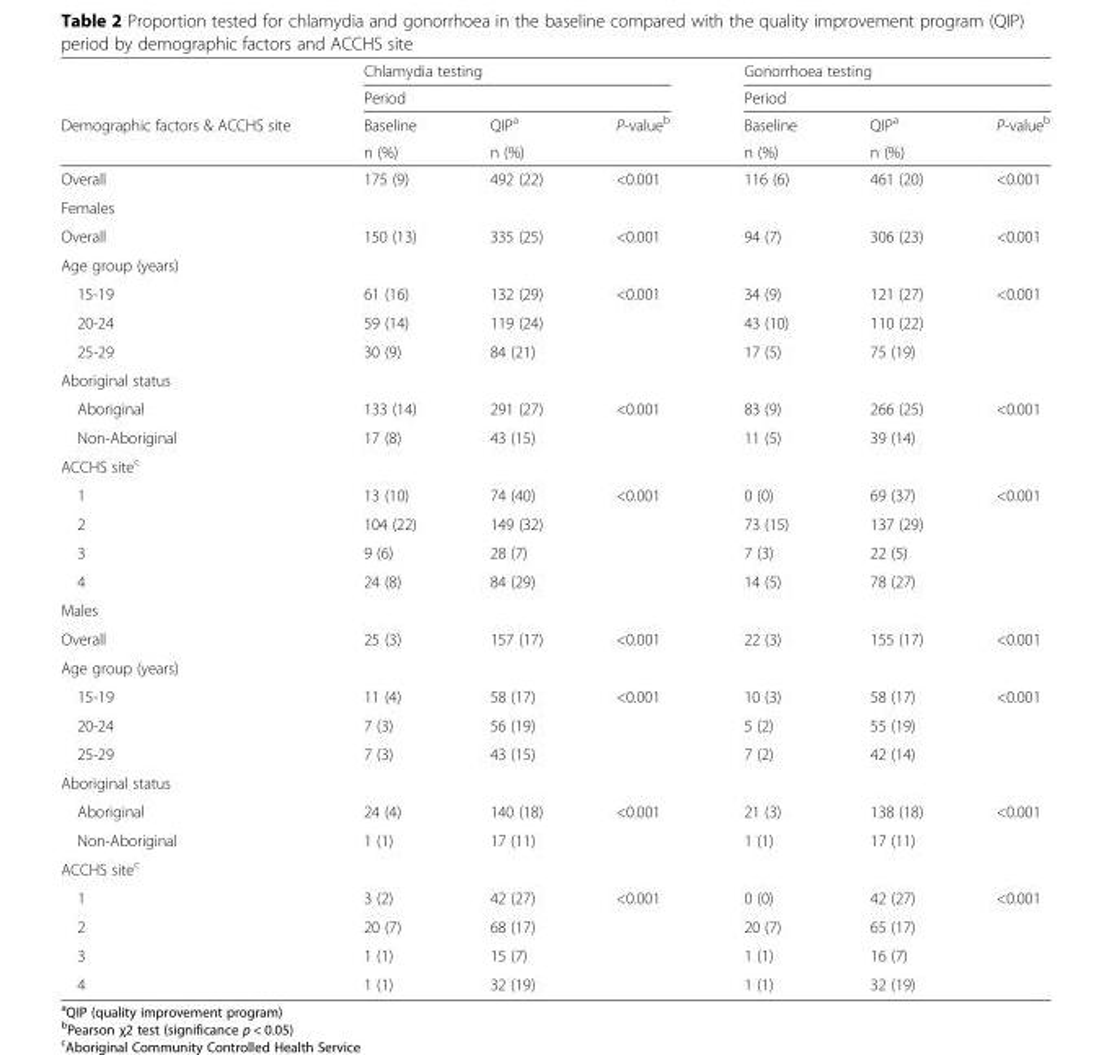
<table><thead><tr><td rowspan="4">Demographic factors &amp; ACCHS site</td><td rowspan="2" colspan="3">Chlamydia testing Period</td><td rowspan="2" colspan="3">Gonorrhoea testing Period</td></tr><tr></tr><tr><td rowspan="2">Baseline n (%)</td><td rowspan="2">QIP<sup>a</sup> n (%)</td><td rowspan="2">P-value<sup>b</sup></td><td rowspan="2">Baseline n (%)</td><td rowspan="2">QIP<sup>a</sup> n (%)</td><td rowspan="2">P-value<sup>b</sup></td></tr><tr></tr></thead><tbody><tr><td>Overall</td><td>175 (9)</td><td>492 (22)</td><td>&lt;0.001</td><td>116 (6)</td><td>461 (20)</td><td>&lt;0.001</td></tr><tr><td colspan="7">Females</td></tr><tr><td>Overall</td><td>150 (13)</td><td>335 (25)</td><td>&lt;0.001</td><td>94 (7)</td><td>306 (23)</td><td>&lt;0.001</td></tr><tr><td colspan="7">Age group (years)</td></tr><tr><td>15-19</td><td>61 (16)</td><td>132 (29)</td><td>&lt;0.001</td><td>34 (9)</td><td>121 (27)</td><td>&lt;0.001</td></tr><tr><td>20-24</td><td>59 (14)</td><td>119 (24)</td><td></td><td>43 (10)</td><td>110 (22)</td><td></td></tr><tr><td>25-29</td><td>30 (9)</td><td>84 (21)</td><td></td><td>17 (5)</td><td>75 (19)</td><td></td></tr><tr><td colspan="7">Aboriginal status</td></tr><tr><td>Aboriginal</td><td>133 (14)</td><td>291 (27)</td><td>&lt;0.001</td><td>83 (9)</td><td>266 (25)</td><td>&lt;0.001</td></tr><tr><td>Non-Aboriginal</td><td>17 (8)</td><td>43 (15)</td><td></td><td>11 (5)</td><td>39 (14)</td><td></td></tr><tr><td colspan="7">ACCHS site<sup>c</sup></td></tr><tr><td>1</td><td>13 (10)</td><td>74 (40)</td><td>&lt;0.001</td><td>0 (0)</td><td>69 (37)</td><td>&lt;0.001</td></tr><tr><td>2</td><td>104 (22)</td><td>149 (32)</td><td></td><td>73 (15)</td><td>137 (29)</td><td></td></tr><tr><td>3</td><td>9 (6)</td><td>28 (7)</td><td></td><td>7 (3)</td><td>22 (5)</td><td></td></tr><tr><td>4</td><td>24 (8)</td><td>84 (29)</td><td></td><td>14 (5)</td><td>78 (27)</td><td></td></tr><tr><td colspan="7">Males</td></tr><tr><td>Overall</td><td>25 (3)</td><td>157 (17)</td><td>&lt;0.001</td><td>22 (3)</td><td>155 (17)</td><td>&lt;0.001</td></tr><tr><td colspan="7">Age group (years)</td></tr><tr><td>15-19</td><td>11 (4)</td><td>58 (17)</td><td>&lt;0.001</td><td>10 (3)</td><td>58 (17)</td><td>&lt;0.001</td></tr><tr><td>20-24</td><td>7 (3)</td><td>56 (19)</td><td></td><td>5 (2)</td><td>55 (19)</td><td></td></tr><tr><td>25-29</td><td>7 (3)</td><td>43 (15)</td><td></td><td>7 (2)</td><td>42 (14)</td><td></td></tr><tr><td colspan="7">Aboriginal status</td></tr><tr><td>Aboriginal</td><td>24 (4)</td><td>140 (18)</td><td>&lt;0.001</td><td>21 (3)</td><td>138 (18)</td><td>&lt;0.001</td></tr><tr><td>Non-Aboriginal</td><td>1 (1)</td><td>17 (11)</td><td></td><td>1 (1)</td><td>17 (11)</td><td></td></tr><tr><td colspan="7">ACCHS site<sup>c</sup></td></tr><tr><td>1</td><td>3 (2)</td><td>42 (27)</td><td>&lt;0.001</td><td>0 (0)</td><td>42 (27)</td><td>&lt;0.001</td></tr><tr><td>2</td><td>20 (7)</td><td>68 (17)</td><td></td><td>20 (7)</td><td>65 (17)</td><td></td></tr><tr><td>3</td><td>1 (1)</td><td>15 (7)</td><td></td><td>1 (1)</td><td>16 (7)</td><td></td></tr><tr><td>4</td><td>1 (1)</td><td>32 (19)</td><td></td><td>1 (1)</td><td>32 (19)</td><td></td></tr></tbody></table>